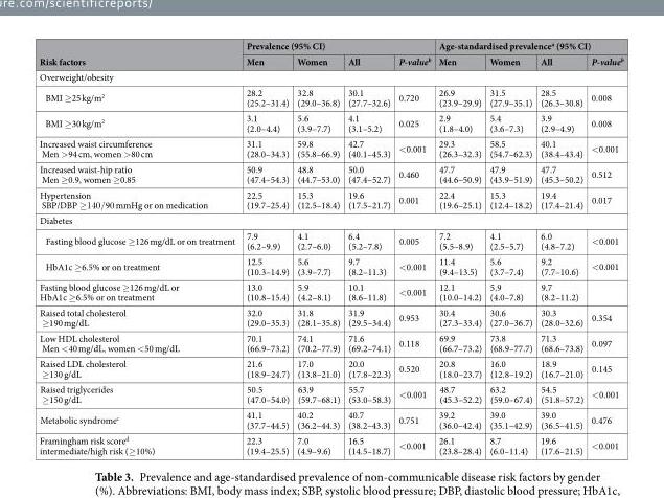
<table><thead><tr><td rowspan="2">Risk factors</td><td colspan="4">Prevalence (95% CI)</td><td colspan="4">Age-standardised prevalence<sup>a</sup> (95% CI)</td></tr><tr><td>Men</td><td>Women</td><td>All</td><td>P-value<sup>b</sup></td><td>Men</td><td>Women</td><td>All</td><td>P-value<sup>b</sup></td></tr></thead><tbody><tr><td colspan="9">Overweight/obesity</td></tr><tr><td>BMI ≥25 kg/m<sup>2</sup></td><td>28.2 (25.2–31.4)</td><td>32.8 (29.0–36.8)</td><td>30.1 (27.7–32.6)</td><td>0.720</td><td>26.9 (23.9–29.9)</td><td>31.5 (27.9–35.1)</td><td>28.5 (26.3–30.8)</td><td>0.008</td></tr><tr><td>BMI ≥30 kg/m<sup>2</sup></td><td>3.1 (2.0–4.4)</td><td>5.6 (3.9–7.7)</td><td>4.1 (3.1–5.2)</td><td>0.025</td><td>2.9 (1.8–4.0)</td><td>5.4 (3.6–7.3)</td><td>3.9 (2.9–4.9)</td><td>0.008</td></tr><tr><td>Increased waist circumference Men &gt;94 cm, women &gt;80 cm</td><td>31.1 (28.0–34.3)</td><td>59.8 (55.8–66.9)</td><td>42.7 (40.1–45.3)</td><td>&lt;0.001</td><td>29.3 (26.3–32.3)</td><td>58.5 (54.7–62.3)</td><td>40.1 (38.4–43.4)</td><td>&lt;0.001</td></tr><tr><td>Increased waist-hip ratio Men ≥0.9, women ≥0.85</td><td>50.9 (47.4–54.3)</td><td>48.8 (44.7–53.0)</td><td>50.0 (47.4–52.7)</td><td>0.460</td><td>47.7 (44.6–50.9)</td><td>47.9 (43.9–51.9)</td><td>47.7 (45.3–50.2)</td><td>0.512</td></tr><tr><td>Hypertension SBP/DBP ≥140/90 mmHg or on medication</td><td>22.5 (19.7–25.4)</td><td>15.3 (12.5–18.4)</td><td>19.6 (17.5–21.7)</td><td>0.001</td><td>22.4 (19.6–25.1)</td><td>15.3 (12.4–18.2)</td><td>19.4 (17.4–21.4)</td><td>0.017</td></tr><tr><td colspan="9">Diabetes</td></tr><tr><td>Fasting blood glucose ≥126 mg/dL or on treatment</td><td>7.9 (6.2–9.9)</td><td>4.1 (2.7–6.0)</td><td>6.4 (5.2–7.8)</td><td>0.005</td><td>7.2 (5.5–8.9)</td><td>4.1 (2.5–5.7)</td><td>6.0 (4.8–7.2)</td><td>&lt;0.001</td></tr><tr><td>HbA1c ≥6.5% or on treatment</td><td>12.5 (10.3–14.9)</td><td>5.6 (3.9–7.7)</td><td>9.7 (8.2–11.3)</td><td>&lt;0.001</td><td>11.4 (9.4–13.5)</td><td>5.6 (3.7–7.4)</td><td>9.2 (7.7–10.6)</td><td>&lt;0.001</td></tr><tr><td>Fasting blood glucose ≥126 mg/dL or HbA1c ≥6.5% or on treatment</td><td>13.0 (10.8–15.4)</td><td>5.9 (4.2–8.1)</td><td>10.1 (8.6–11.8)</td><td>&lt;0.001</td><td>12.1 (10.0–14.2)</td><td>5.9 (4.0–7.8)</td><td>9.7 (8.2–11.2)</td><td></td></tr><tr><td>Raised total cholesterol ≥190 mg/dL</td><td>32.0 (29.0–35.3)</td><td>31.8 (28.1–35.8)</td><td>31.9 (29.5–34.4)</td><td>0.953</td><td>30.4 (27.3–33.4)</td><td>30.6 (27.0–36.7)</td><td>30.3 (28.0–32.6)</td><td>0.354</td></tr><tr><td>Low HDL cholesterol Men &lt;40 mg/dL, women &lt;50 mg/dL</td><td>70.1 (66.9–73.2)</td><td>74.1 (70.2–77.9)</td><td>71.6 (69.2–74.1)</td><td>0.118</td><td>69.9 (66.7–73.2)</td><td>73.8 (68.9–77.7)</td><td>71.3 (68.6–73.8)</td><td>0.097</td></tr><tr><td>Raised LDL cholesterol ≥130 g/dL</td><td>21.6 (18.9–24.7)</td><td>17.0 (13.8–21.0)</td><td>20.0 (17.8–22.3)</td><td>0.520</td><td>20.8 (18.0–23.7)</td><td>16.0 (12.8–19.2)</td><td>18.9 (16.7–21.0)</td><td>0.145</td></tr><tr><td>Raised triglycerides ≥150 g/dL</td><td>50.5 (47.0–54.0)</td><td>63.9 (59.7–68.1)</td><td>55.7 (53.0–58.3)</td><td>&lt;0.001</td><td>48.7 (45.3–52.2)</td><td>63.2 (59.0–67.4)</td><td>54.5 (51.8–57.2)</td><td>&lt;0.001</td></tr><tr><td>Metabolic syndrome<sup>c</sup></td><td>41.1 (37.7–44.5)</td><td>40.2 (36.2–44.3)</td><td>40.7 (38.2–43.3)</td><td>0.751</td><td>39.2 (36.0–42.4)</td><td>39.0 (35.1–42.9)</td><td>39.0 (36.5–41.5)</td><td>0.476</td></tr><tr><td>Framingham risk score<sup>d</sup> intermediate/high risk (≥10%)</td><td>22.3 (19.4–25.5)</td><td>7.0 (4.9–9.6)</td><td>16.5 (14.5–18.7)</td><td>&lt;0.001</td><td>26.1 (23.8–28.4)</td><td>8.7 (6.0–11.4)</td><td>19.6 (17.6–21.5)</td><td>&lt;0.001</td></tr></tbody></table>